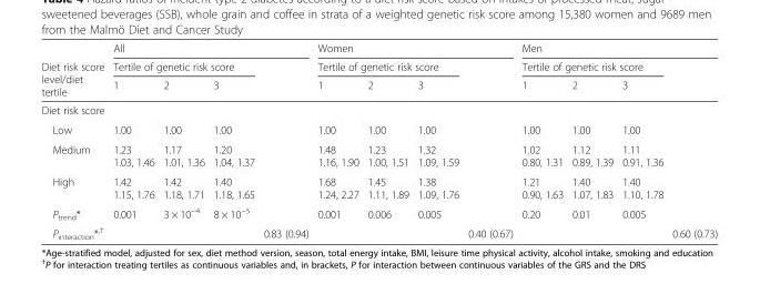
<table><thead><tr><td rowspan="3">Diet risk score level/diet tertile</td><td colspan="4">All</td><td colspan="4">Women</td><td colspan="4">Men</td></tr><tr><td colspan="3">Tertile of genetic risk score</td><td rowspan="2"></td><td colspan="3">Tertile of genetic risk score</td><td rowspan="2"></td><td colspan="3">Tertile of genetic risk score</td><td rowspan="2"></td></tr><tr><td>1</td><td>2</td><td>3</td><td>1</td><td>2</td><td>3</td><td>1</td><td>2</td><td>3</td></tr></thead><tbody><tr><td colspan="13">Diet risk score</td></tr><tr><td>Low</td><td>1.00</td><td>1.00</td><td>1.00</td><td></td><td>1.00</td><td>1.00</td><td>1.00</td><td></td><td>1.00</td><td>1.00</td><td>1.00</td><td></td></tr><tr><td>Medium</td><td>1.23 1.03, 1.46</td><td>1.17 1.01, 1.36</td><td>1.20 1.04, 1.37</td><td></td><td>1.48 1.16, 1.90</td><td>1.23 1.00, 1.51</td><td>1.32 1.09, 1.59</td><td></td><td>1.02 0.80, 1.31</td><td>1.12 0.89, 1.39</td><td>1.11 0.91, 1.36</td><td></td></tr><tr><td>High</td><td>1.42 1.15, 1.76</td><td>1.42 1.18, 1.71</td><td>1.40 1.18, 1.65</td><td></td><td>1.68 1.24, 2.27</td><td>1.45 1.11, 1.89</td><td>1.38 1.09, 1.76</td><td></td><td>1.21 0.90, 1.63</td><td>1.40 1.07, 1.83</td><td>1.40 1.10, 1.78</td><td></td></tr><tr><td>P<sub>trend</sub>*</td><td>0.001</td><td>3 × 10<sup>−4</sup></td><td>8 × 10<sup>−5</sup></td><td></td><td>0.001</td><td>0.006</td><td>0.005</td><td></td><td>0.20</td><td>0.01</td><td>0.005</td><td></td></tr><tr><td>P<sub>interaction</sub>*<sup>,†</sup></td><td></td><td></td><td></td><td>0.83 (0.94)</td><td></td><td></td><td></td><td>0.40 (0.67)</td><td></td><td></td><td></td><td>0.60 (0.73)</td></tr></tbody></table>